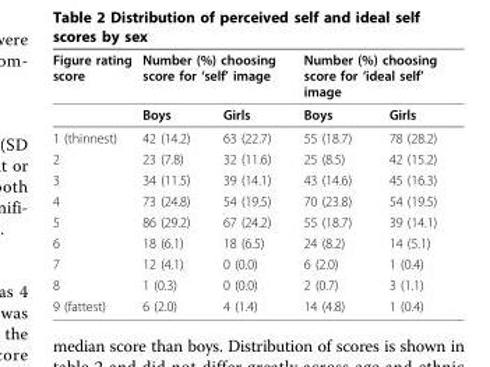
<table><thead><tr><td rowspan="2">Figure rating score</td><td colspan="2">Number (%) choosing score for ‘self’ image</td><td colspan="2">Number (%) choosing score for ‘ideal self’ image</td></tr><tr><td>Boys</td><td>Girls</td><td>Boys</td><td>Girls</td></tr></thead><tbody><tr><td>1 (thinnest)</td><td>42 (14.2)</td><td>63 (22.7)</td><td>55 (18.7)</td><td>78 (28.2)</td></tr><tr><td>2</td><td>23 (7.8)</td><td>32 (11.6)</td><td>25 (8.5)</td><td>42 (15.2)</td></tr><tr><td>3</td><td>34 (11.5)</td><td>39 (14.1)</td><td>43 (14.6)</td><td>45 (16.3)</td></tr><tr><td>4</td><td>73 (24.8)</td><td>54 (19.5)</td><td>70 (23.8)</td><td>54 (19.5)</td></tr><tr><td>5</td><td>86 (29.2)</td><td>67 (24.2)</td><td>55 (18.7)</td><td>39 (14.1)</td></tr><tr><td>6</td><td>18 (6.1)</td><td>18 (6.5)</td><td>24 (8.2)</td><td>14 (5.1)</td></tr><tr><td>7</td><td>12 (4.1)</td><td>0 (0.0)</td><td>6 (2.0)</td><td>1 (0.4)</td></tr><tr><td>8</td><td>1 (0.3)</td><td>0 (0.0)</td><td>2 (0.7)</td><td>3 (1.1)</td></tr><tr><td>9 (fattest)</td><td>6 (2.0)</td><td>4 (1.4)</td><td>14 (4.8)</td><td>1 (0.4)</td></tr></tbody></table>